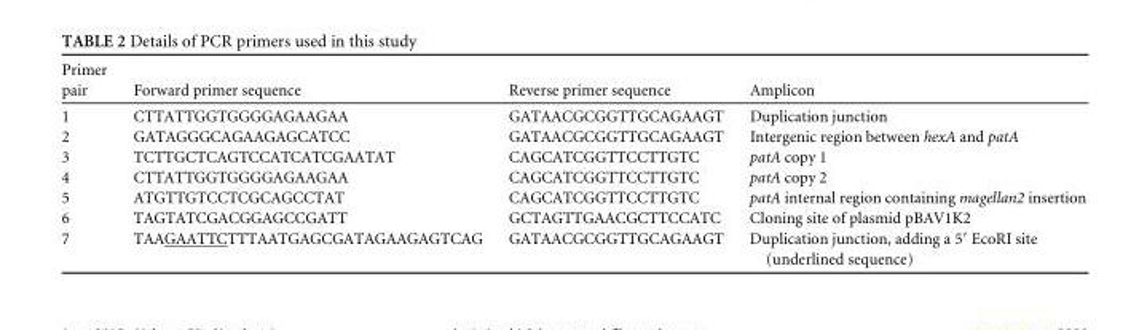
<table><thead><tr><td>Primer pair</td><td>Forward primer sequence</td><td>Reverse primer sequence</td><td>Amplicon</td></tr></thead><tbody><tr><td>1</td><td>CTTATTGGTGGGGAGAAGAA</td><td>GATAACGCGGTTGCAGAAGT</td><td>Duplication junction</td></tr><tr><td>2</td><td>GATAGGGCAGAAGAGCATCC</td><td>GATAACGCGGTTGCAGAAGT</td><td>Intergenic region between hexA and patA</td></tr><tr><td>3</td><td>TCTTGCTCAGTCCATCATCGAATAT</td><td>CAGCATCGGTTCCTTGTC</td><td>patA copy 1</td></tr><tr><td>4</td><td>CTTATTGGTGGGGAGAAGAA</td><td>CAGCATCGGTTCCTTGTC</td><td>patA copy 2</td></tr><tr><td>5</td><td>ATGTTGTCCTCGCAGCCTAT</td><td>CAGCATCGGTTCCTTGTC</td><td>patA internal region containing magellan2 insertion</td></tr><tr><td>6</td><td>TAGTATCGACGGAGCCGATT</td><td>GCTAGTTGAACGCTTCCATC</td><td>Cloning site of plasmid pBAV1K2</td></tr><tr><td>7</td><td>TAAGAATTCTTTAATGAGCGATAGAAGAGTCAG</td><td>GATAACGCGGTTGCAGAAGT</td><td>Duplication junction, adding a 5= EcoRI site (underlined sequence)</td></tr></tbody></table>